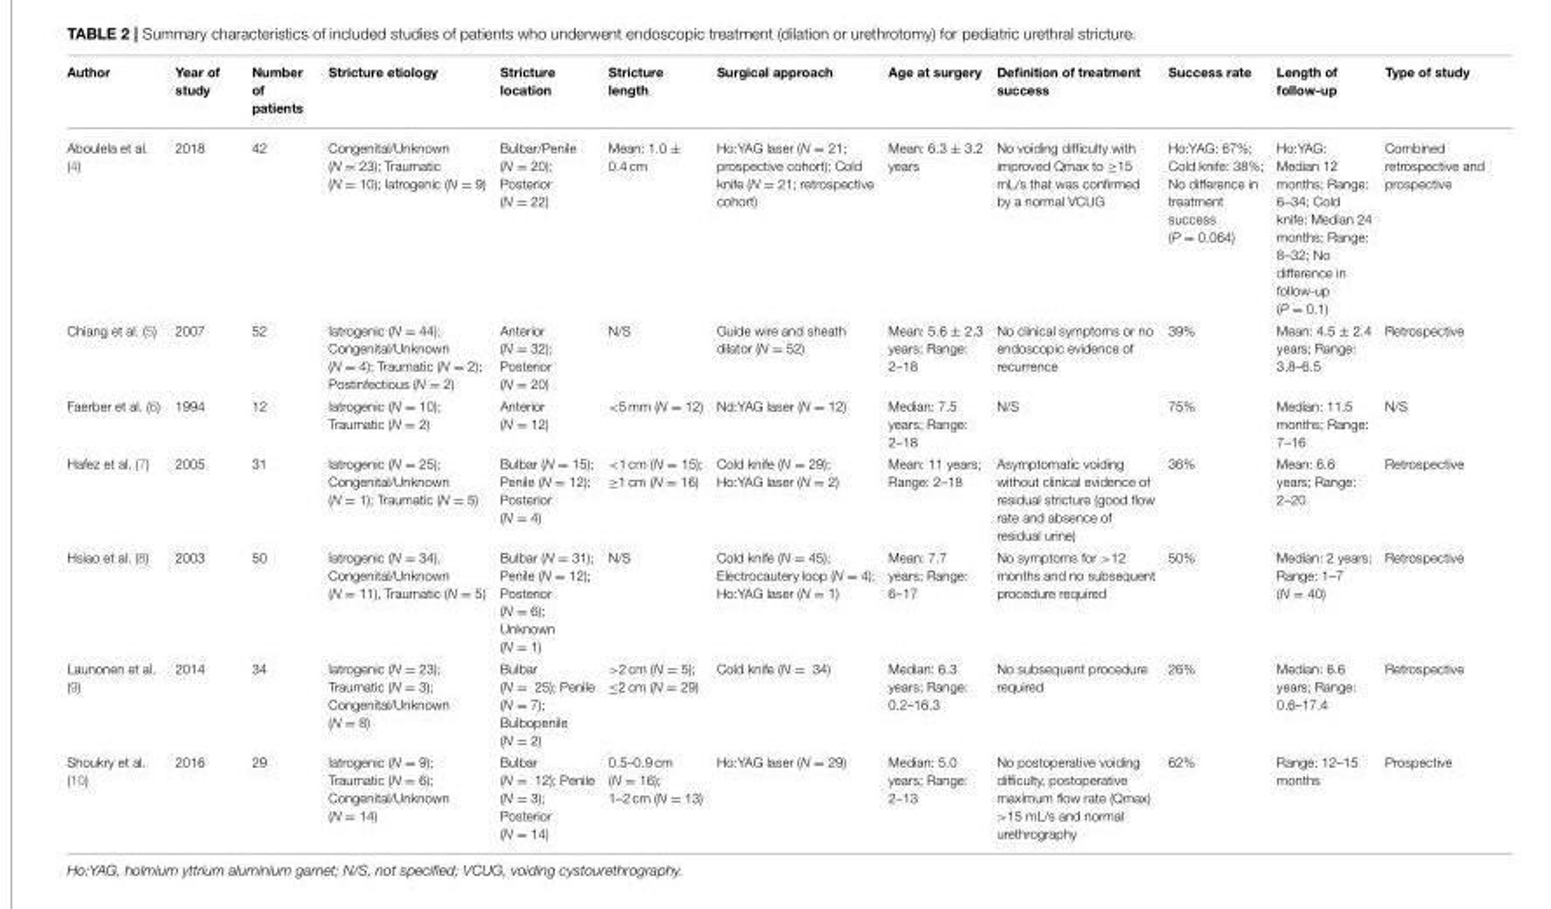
<table><thead><tr><td>Author</td><td>Year of study</td><td>Number of patients</td><td>Stricture etiology</td><td>Stricture location</td><td>Stricture length</td><td>Surgical approach</td><td>Age at surgery</td><td>Definition of treatment success</td><td>Success rate</td><td>Length of follow-up</td><td>Type of study</td></tr></thead><tbody><tr><td>Aboulela et al. (4)</td><td>2018</td><td>42</td><td>Congenital/Unknown (N = 23); Traumatic (N = 10); Iatrogenic (N = 9)</td><td>Bulbar/Penile (N = 20); Posterior (N = 22)</td><td>Mean: 1.0 ± 0.4 cm</td><td>Ho:YAG laser (N = 21; prospective cohort); Cold knife (N = 21; retrospective cohort)</td><td>Mean: 6.3 ± 3.2 years</td><td>No voiding difficulty with improved Qmax to ≥15 mL/s that was confirmed by a normal VCUG</td><td>Ho:YAG: 67%; Cold knife: 38%; No difference in treatment success (P = 0.064)</td><td>Ho:YAG: Median 12 months; Range: 6–34; Cold knife: Median 24 months; Range: 8–32; No difference in follow-up (P = 0.1)</td><td>Combined retrospective and prospective</td></tr><tr><td>Chiang et al. (5)</td><td>2007</td><td>52</td><td>Iatrogenic (N = 44); Congenital/Unknown (N = 4); Traumatic (N = 2); Postinfectious (N = 2)</td><td>Anterior (N = 32); Posterior (N = 20)</td><td>N/S</td><td>Guide wire and sheath dilator (N = 52)</td><td>Mean: 5.6 ± 2.3 years; Range: 2–18</td><td>No clinical symptoms or no endoscopic evidence of recurrence</td><td>39%</td><td>Mean: 4.5 ± 2.4 years; Range: 3.8–6.5</td><td>Retrospective</td></tr><tr><td>Faerber et al. (6)</td><td>1994</td><td>12</td><td>Iatrogenic (N = 10); Traumatic (N = 2)</td><td>Anterior (N = 12)</td><td>&lt;5 mm (N = 12)</td><td>Nd:YAG laser (N = 12)</td><td>Median: 7.5 years; Range: 2–18</td><td>N/S</td><td>75%</td><td>Median: 11.5 months; Range: 7–16</td><td>N/S</td></tr><tr><td>Hafez et al. (7)</td><td>2005</td><td>31</td><td>Iatrogenic (N = 25); Congenital/Unknown (N = 1); Traumatic (N = 5)</td><td>Bulbar (N = 15); Penile (N = 12); Posterior (N = 4)</td><td>&lt;1 cm (N = 15); ≥1 cm (N = 16)</td><td>Cold knife (N = 29); Ho:YAG laser (N = 2)</td><td>Mean: 11 years; Range: 2–18</td><td>Asymptomatic voiding without clinical evidence of residual stricture (good flow rate and absence of residual urine)</td><td>36%</td><td>Mean: 6.6 years; Range: 2–20</td><td>Retrospective</td></tr><tr><td>Hsiao et al. (8)</td><td>2003</td><td>50</td><td>Iatrogenic (N = 34), Congenital/Unknown (N = 11), Traumatic (N = 5)</td><td>Bulbar (N = 31); Penile (N = 12); Posterior (N = 6); Unknown (N = 1)</td><td>N/S</td><td>Cold knife (N = 45); Electrocautery loop (N = 4); Ho:YAG laser (N = 1)</td><td>Mean: 7.7 years; Range: 6–17</td><td>No symptoms for &gt;12 months and no subsequent procedure required</td><td>50%</td><td>Median: 2 years; Range: 1–7 (N = 40)</td><td>Retrospective</td></tr><tr><td>Launonen et al. (9)</td><td>2014</td><td>34</td><td>Iatrogenic (N = 23); Traumatic (N = 3); Congenital/Unknown (N = 8)</td><td>Bulbar (N = 25); Penile (N = 7); Bulbopenile (N = 2)</td><td>&gt;2 cm (N = 5); ≤2 cm (N = 29)</td><td>Cold knife (N = 34)</td><td>Median: 6.3 years; Range: 0.2–16.3</td><td>No subsequent procedure required</td><td>26%</td><td>Median: 6.6 years; Range: 0.6–17.4</td><td>Retrospective</td></tr><tr><td>Shoukry et al. (10)</td><td>2016</td><td>29</td><td>Iatrogenic (N = 9); Traumatic (N = 6); Congenital/Unknown (N = 14)</td><td>Bulbar (N = 12); Penile (N = 3); Posterior (N = 14)</td><td>0.5–0.9 cm (N = 16); 1–2 cm (N = 13)</td><td>Ho:YAG laser (N = 29)</td><td>Median: 5.0 years; Range: 2–13</td><td>No postoperative voiding difficulty, postoperative maximum flow rate (Qmax) &gt;15 mL/s and normal urethrography</td><td>62%</td><td>Range: 12–15 months</td><td>Prospective</td></tr></tbody></table>